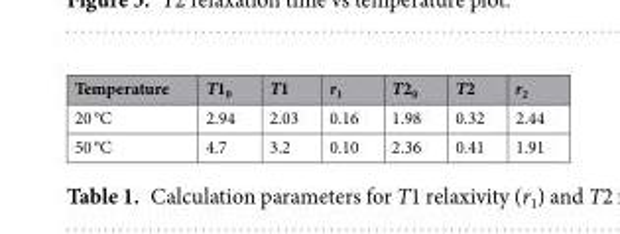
<table><thead><tr><td>Temperature</td><td>T1<sub>0</sub></td><td>T1</td><td>r<sub>1</sub></td><td>T2<sub>0</sub></td><td>T2</td><td>r<sub>2</sub></td></tr></thead><tbody><tr><td>20 °C</td><td>2.94</td><td>2.03</td><td>0.16</td><td>1.98</td><td>0.32</td><td>2.44</td></tr><tr><td>50 °C</td><td>4.7</td><td>3.2</td><td>0.10</td><td>2.36</td><td>0.41</td><td>1.91</td></tr></tbody></table>